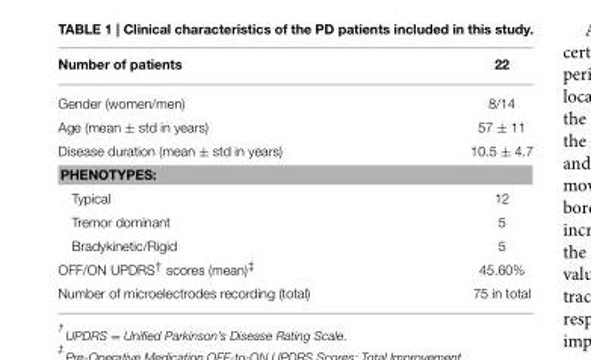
<table><thead><tr><td>Number of patients</td><td>22</td></tr></thead><tbody><tr><td>Gender (women/men)</td><td>8/14</td></tr><tr><td>Age (mean ± std in years)</td><td>57 ± 11</td></tr><tr><td>Disease duration (mean ± std in years)</td><td>10.5 ± 4.7</td></tr><tr><td colspan="2">PHENOTYPES:</td></tr><tr><td>Typical</td><td>12</td></tr><tr><td>Tremor dominant</td><td>5</td></tr><tr><td>Bradykinetic/Rigid</td><td>5</td></tr><tr><td>OFF/ON UPDRS<sup>†</sup> scores (mean)<sup>‡</sup></td><td>45.60%</td></tr><tr><td>Number of microelectrodes recording (total)</td><td>75 in total</td></tr></tbody></table>